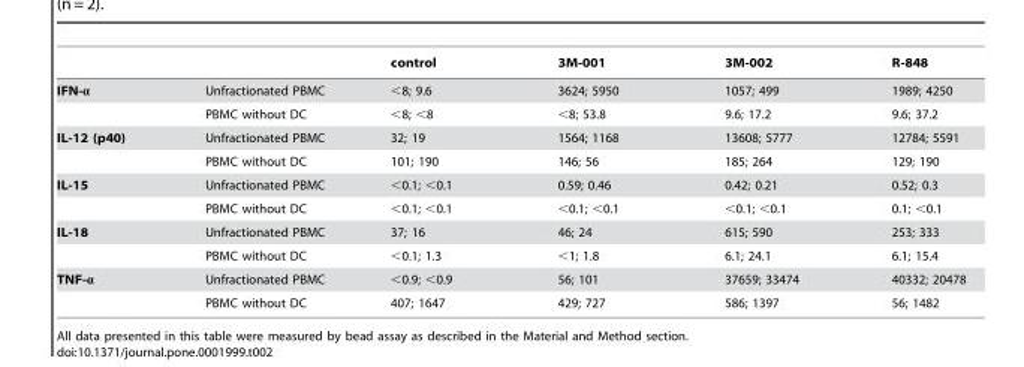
<table><thead><tr><td></td><td></td><td>control</td><td>3M-001</td><td>3M-002</td><td>R-848</td></tr></thead><tbody><tr><td rowspan="2">IFN-α</td><td>Unfractionated PBMC</td><td>&lt;8; 9.6</td><td>3624; 5950</td><td>1057; 499</td><td>1989; 4250</td></tr><tr><td>PBMC without DC</td><td>&lt;8; &lt;8</td><td>&lt;8; 53.8</td><td>9.6; 17.2</td><td>9.6; 37.2</td></tr><tr><td rowspan="2">IL-12 (p40)</td><td>Unfractionated PBMC</td><td>32; 19</td><td>1564; 1168</td><td>13608; 5777</td><td>12784; 5591</td></tr><tr><td>PBMC without DC</td><td>101; 190</td><td>146; 56</td><td>185; 264</td><td>129; 190</td></tr><tr><td rowspan="2">IL-15</td><td>Unfractionated PBMC</td><td>&lt;0.1; &lt;0.1</td><td>0.59; 0.46</td><td>0.42; 0.21</td><td>0.52; 0.3</td></tr><tr><td>PBMC without DC</td><td>&lt;0.1; &lt;0.1</td><td>&lt;0.1; &lt;0.1</td><td>&lt;0.1; &lt;0.1</td><td>0.1; &lt;0.1</td></tr><tr><td rowspan="2">IL-18</td><td>Unfractionated PBMC</td><td>37; 16</td><td>46; 24</td><td>615; 590</td><td>253; 333</td></tr><tr><td>PBMC without DC</td><td>&lt;0.1; 1.3</td><td>&lt;1; 1.8</td><td>6.1; 24.1</td><td>6.1; 15.4</td></tr><tr><td rowspan="2">TNF-α</td><td>Unfractionated PBMC</td><td>&lt;0.9; &lt;0.9</td><td>56; 101</td><td>37659; 33474</td><td>40332; 20478</td></tr><tr><td>PBMC without DC</td><td>407; 1647</td><td>429; 727</td><td>586; 1397</td><td>56; 1482</td></tr></tbody></table>